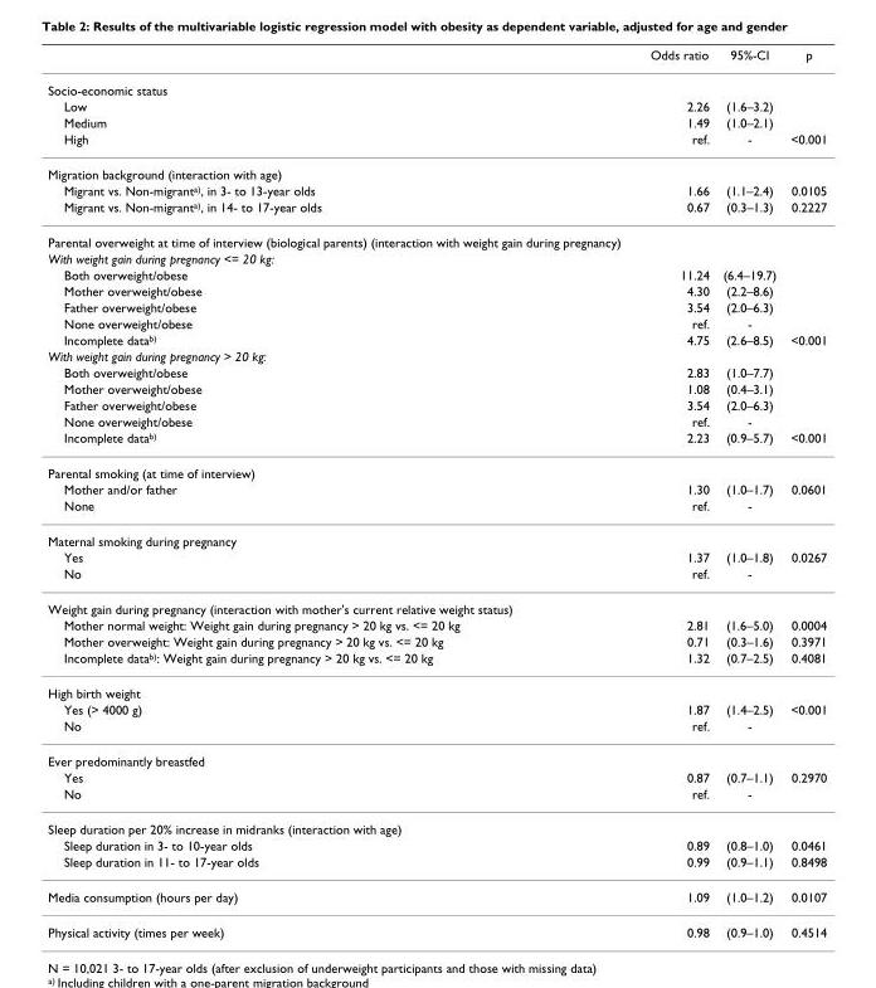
<table><thead><tr><td></td><td>Odds ratio</td><td>95%-CI</td><td>p</td></tr></thead><tbody><tr><td colspan="4">Socio-economic status</td></tr><tr><td>Low</td><td>2.26</td><td>(1.6–3.2)</td><td></td></tr><tr><td>Medium</td><td>1.49</td><td>(1.0–2.1)</td><td></td></tr><tr><td>High</td><td>ref.</td><td>-</td><td>&lt;0.001</td></tr><tr><td colspan="4">Migration background (interaction with age)</td></tr><tr><td>Migrant vs. Non-migrant<sup>a)</sup>, in 3- to 13-year olds</td><td>1.66</td><td>(1.1–2.4)</td><td>0.0105</td></tr><tr><td>Migrant vs. Non-migrant<sup>a)</sup>, in 14- to 17-year olds</td><td>0.67</td><td>(0.3–1.3)</td><td>0.2227</td></tr><tr><td colspan="4">Parental overweight at time of interview (biological parents) (interaction with weight gain during pregnancy)</td></tr><tr><td colspan="4">With weight gain during pregnancy &lt;= 20 kg:</td></tr><tr><td>Both overweight/obese</td><td>11.24</td><td>(6.4–19.7)</td><td></td></tr><tr><td>Mother overweight/obese</td><td>4.30</td><td>(2.2–8.6)</td><td></td></tr><tr><td>Father overweight/obese</td><td>3.54</td><td>(2.0–6.3)</td><td></td></tr><tr><td>None overweight/obese</td><td>ref.</td><td>-</td><td></td></tr><tr><td>Incomplete data<sup>b)</sup></td><td>4.75</td><td>(2.6–8.5)</td><td>&lt;0.001</td></tr><tr><td colspan="4">With weight gain during pregnancy &gt; 20 kg:</td></tr><tr><td>Both overweight/obese</td><td>2.83</td><td>(1.0–7.7)</td><td></td></tr><tr><td>Mother overweight/obese</td><td>1.08</td><td>(0.4–3.1)</td><td></td></tr><tr><td>Father overweight/obese</td><td>3.54</td><td>(2.0–6.3)</td><td></td></tr><tr><td>None overweight/obese</td><td>ref.</td><td>-</td><td></td></tr><tr><td>Incomplete data<sup>b)</sup></td><td>2.23</td><td>(0.9–5.7)</td><td>&lt;0.001</td></tr><tr><td colspan="4">Parental smoking (at time of interview)</td></tr><tr><td>Mother and/or father</td><td>1.30</td><td>(1.0–1.7)</td><td>0.0601</td></tr><tr><td>None</td><td>ref.</td><td>-</td><td></td></tr><tr><td colspan="4">Maternal smoking during pregnancy</td></tr><tr><td>Yes</td><td>1.37</td><td>(1.0–1.8)</td><td>0.0267</td></tr><tr><td>No</td><td>ref.</td><td>-</td><td></td></tr><tr><td colspan="4">Weight gain during pregnancy (interaction with mother&#x27;s current relative weight status)</td></tr><tr><td>Mother normal weight: Weight gain during pregnancy &gt; 20 kg vs. &lt;= 20 kg</td><td>2.81</td><td>(1.6–5.0)</td><td>0.0004</td></tr><tr><td>Mother overweight: Weight gain during pregnancy &gt; 20 kg vs. &lt;= 20 kg</td><td>0.71</td><td>(0.3–1.6)</td><td>0.3971</td></tr><tr><td>Incomplete data<sup>b)</sup>: Weight gain during pregnancy &gt; 20 kg vs. &lt;= 20 kg</td><td>1.32</td><td>(0.7–2.5)</td><td>0.4081</td></tr><tr><td colspan="4">High birth weight</td></tr><tr><td>Yes (&gt; 4000 g)</td><td>1.87</td><td>(1.4–2.5)</td><td>&lt;0.001</td></tr><tr><td>No</td><td>ref.</td><td>-</td><td></td></tr><tr><td colspan="4">Ever predominantly breastfed</td></tr><tr><td>Yes</td><td>0.87</td><td>(0.7–1.1)</td><td>0.2970</td></tr><tr><td>No</td><td>ref.</td><td>-</td><td></td></tr><tr><td colspan="4">Sleep duration per 20% increase in midranks (interaction with age)</td></tr><tr><td>Sleep duration in 3- to 10-year olds</td><td>0.89</td><td>(0.8–1.0)</td><td>0.0461</td></tr><tr><td>Sleep duration in 11- to 17-year olds</td><td>0.99</td><td>(0.9–1.1)</td><td>0.8498</td></tr><tr><td>Media consumption (hours per day)</td><td>1.09</td><td>(1.0–1.2)</td><td>0.0107</td></tr><tr><td>Physical activity (times per week)</td><td>0.98</td><td>(0.9–1.0)</td><td>0.4514</td></tr></tbody></table>